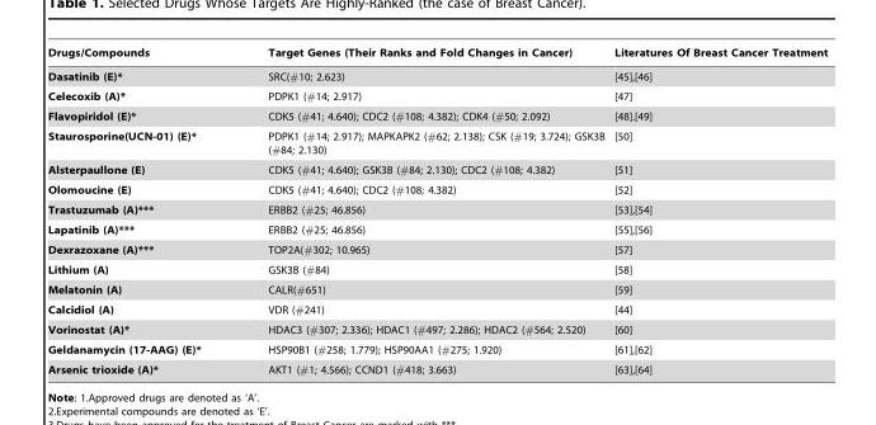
<table><thead><tr><td>Drugs/Compounds</td><td>Target Genes (Their Ranks and Fold Changes in Cancer)</td><td>Literatures Of Breast Cancer Treatment</td></tr></thead><tbody><tr><td>Dasatinib (E)*</td><td>SRC(#10; 2.623)</td><td>[45],[46]</td></tr><tr><td>Celecoxib (A)*</td><td>PDPK1 (#14; 2.917)</td><td>[47]</td></tr><tr><td>Flavopiridol (E)*</td><td>CDK5 (#41; 4.640); CDC2 (#108; 4.382); CDK4 (#50; 2.092)</td><td>[48].[49]</td></tr><tr><td>Staurosporine(UCN-01) (E)*</td><td>PDPK1 (#14; 2.917); MAPKAPK2 (#62; 2.138); CSK (#19; 3.724); GSK3B (#84; 2.130)</td><td>[50]</td></tr><tr><td>Alsterpaullone (E)</td><td>CDK5 (#41; 4.640); GSK3B (#84; 2.130); CDC2 (#108; 4.382)</td><td>[51]</td></tr><tr><td>Olomoucine (E)</td><td>CDK5 (#41; 4.640); CDC2 (#108; 4.382)</td><td>[52]</td></tr><tr><td>Trastuzumab (A)***</td><td>ERBB2 (#25; 46.856)</td><td>[53],[54]</td></tr><tr><td>Lapatinib (A)***</td><td>ERBB2 (#25; 46.856)</td><td>[55],[56]</td></tr><tr><td>Dexrazoxane (A)***</td><td>TOP2A(#302; 10.965)</td><td>[57]</td></tr><tr><td>Lithium (A)</td><td>GSK3B (#84)</td><td>[58]</td></tr><tr><td>Melatonin (A)</td><td>CALR(#651)</td><td>[59]</td></tr><tr><td>Calcidiol (A)</td><td>VDR (#241)</td><td>[44]</td></tr><tr><td>Vorinostat (A)*</td><td>HDAC3 (#307; 2.336); HDAC1 (#497; 2.286); HDAC2 (#564; 2.520)</td><td>[60]</td></tr><tr><td>Geldanamycin (17-AAG) (E)*</td><td>HSP90B1 (#258; 1.779); HSP90AA1 (#275; 1.920)</td><td>[61],[62]</td></tr><tr><td>Arsenic trioxide (A)*</td><td>AKT1 (#1; 4.566); CCND1 (#418; 3.663)</td><td>[63],[64]</td></tr></tbody></table>